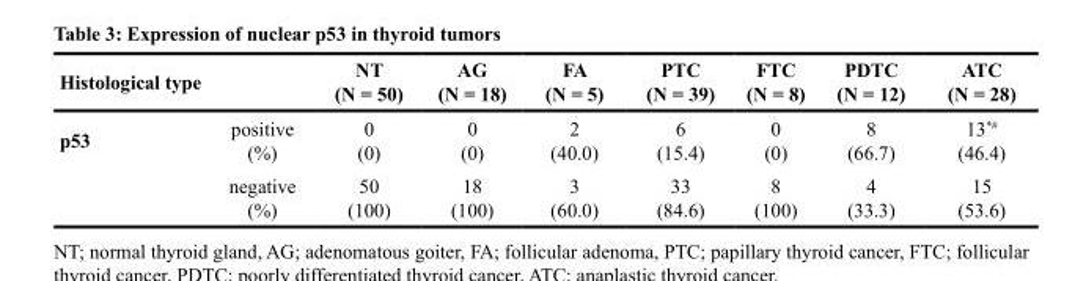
<table><thead><tr><td>Histological type</td><td></td><td>NT (N = 50)</td><td>AG (N = 18)</td><td>FA (N = 5)</td><td>PTC (N = 39)</td><td>FTC (N = 8)</td><td>PDTC (N = 12)</td><td>ATC (N = 28)</td></tr></thead><tbody><tr><td rowspan="2">p53</td><td>positive (%)</td><td>0 (0)</td><td>0 (0)</td><td>2 (40.0)</td><td>6 (15.4)</td><td>0 (0)</td><td>8 (66.7)</td><td>13<sup>*#</sup> (46.4)</td></tr><tr><td>negative (%)</td><td>50 (100)</td><td>18 (100)</td><td>3 (60.0)</td><td>33 (84.6)</td><td>8 (100)</td><td>4 (33.3)</td><td>15 (53.6)</td></tr></tbody></table>